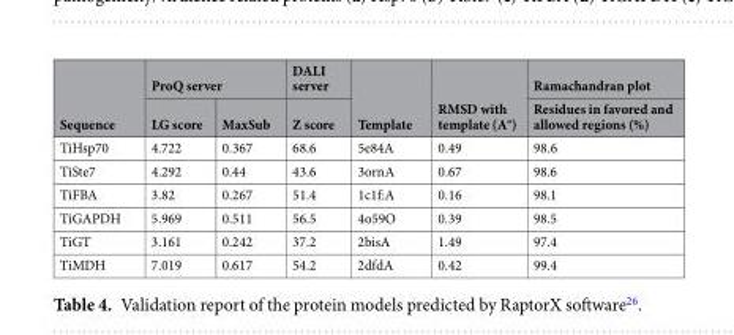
<table><thead><tr><td rowspan="2">Sequence</td><td colspan="2">ProQ server</td><td rowspan="2">DALI server Z score</td><td rowspan="2">Template</td><td rowspan="2">RMSD with template (A°)</td><td rowspan="2">Ramachandran plot Residues in favored and allowed regions (%)</td></tr><tr><td>LG score</td><td>MaxSub</td></tr></thead><tbody><tr><td>TiHsp70</td><td>4.722</td><td>0.367</td><td>68.6</td><td>5e84A</td><td>0.49</td><td>98.6</td></tr><tr><td>TiSte7</td><td>4.292</td><td>0.44</td><td>43.6</td><td>3ornA</td><td>0.67</td><td>98.6</td></tr><tr><td>TiFBA</td><td>3.82</td><td>0.267</td><td>51.4</td><td>1c1f:A</td><td>0.16</td><td>98.1</td></tr><tr><td>TiGAPDH</td><td>5.969</td><td>0.511</td><td>56.5</td><td>4o59O</td><td>0.39</td><td>98.5</td></tr><tr><td>TiGT</td><td>3.161</td><td>0.242</td><td>37.2</td><td>2bisA</td><td>1.49</td><td>97.4</td></tr><tr><td>TiMDH</td><td>7.019</td><td>0.617</td><td>54.2</td><td>2dfdA</td><td>0.42</td><td>99.4</td></tr></tbody></table>